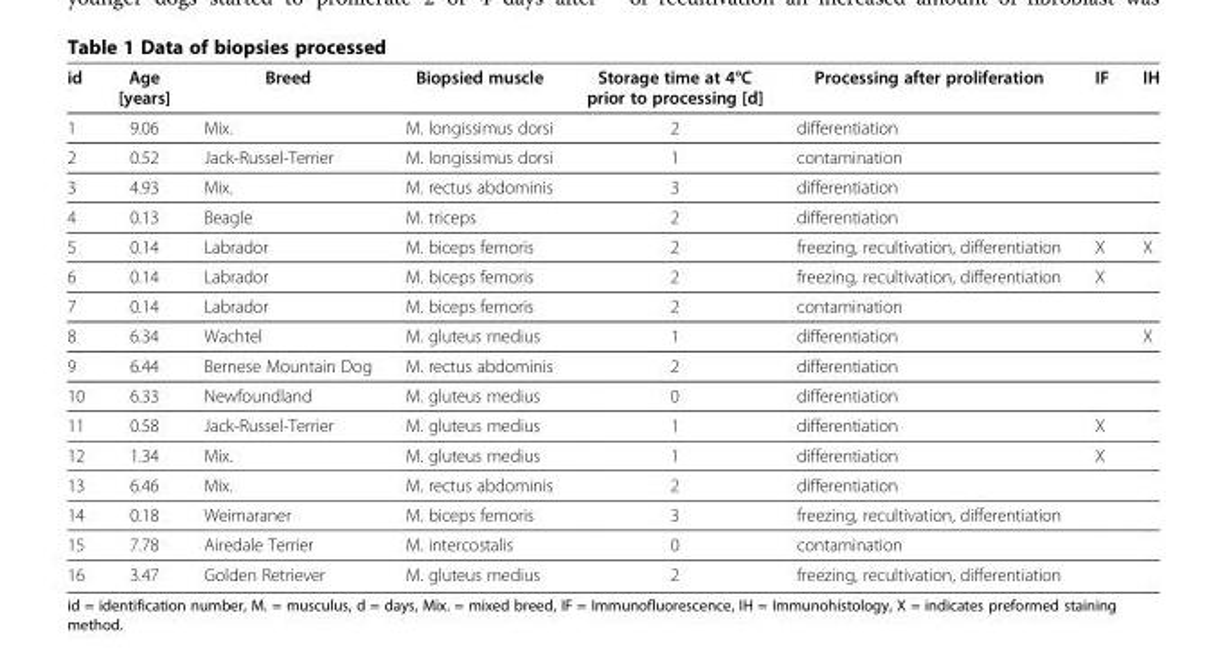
<table><thead><tr><td>id</td><td>Age [years]</td><td>Breed</td><td>Biopsied muscle</td><td>Storage time at 4°C prior to processing [d]</td><td>Processing after proliferation</td><td>IF</td><td>IH</td></tr></thead><tbody><tr><td>1</td><td>9.06</td><td>Mix.</td><td>M. longissimus dorsi</td><td>2</td><td>differentiation</td><td></td><td></td></tr><tr><td>2</td><td>0.52</td><td>Jack-Russel-Terrier</td><td>M. longissimus dorsi</td><td>1</td><td>contamination</td><td></td><td></td></tr><tr><td>3</td><td>4.93</td><td>Mix.</td><td>M. rectus abdominis</td><td>3</td><td>differentiation</td><td></td><td></td></tr><tr><td>4</td><td>0.13</td><td>Beagle</td><td>M. triceps</td><td>2</td><td>differentiation</td><td></td><td></td></tr><tr><td>5</td><td>0.14</td><td>Labrador</td><td>M. biceps femoris</td><td>2</td><td>freezing, recultivation, differentiation</td><td>X</td><td>X</td></tr><tr><td>6</td><td>0.14</td><td>Labrador</td><td>M. biceps femoris</td><td>2</td><td>freezing, recultivation, differentiation</td><td>X</td><td></td></tr><tr><td>7</td><td>0.14</td><td>Labrador</td><td>M. biceps femoris</td><td>2</td><td>contamination</td><td></td><td></td></tr><tr><td>8</td><td>6.34</td><td>Wachtel</td><td>M. gluteus medius</td><td>1</td><td>differentiation</td><td></td><td>X</td></tr><tr><td>9</td><td>6.44</td><td>Bernese Mountain Dog</td><td>M. rectus abdominis</td><td>2</td><td>differentiation</td><td></td><td></td></tr><tr><td>10</td><td>6.33</td><td>Newfoundland</td><td>M. gluteus medius</td><td>0</td><td>differentiation</td><td></td><td></td></tr><tr><td>11</td><td>0.58</td><td>Jack-Russel-Terrier</td><td>M. gluteus medius</td><td>1</td><td>differentiation</td><td>X</td><td></td></tr><tr><td>12</td><td>1.34</td><td>Mix.</td><td>M. gluteus medius</td><td>1</td><td>differentiation</td><td>X</td><td></td></tr><tr><td>13</td><td>6.46</td><td>Mix.</td><td>M. rectus abdominis</td><td>2</td><td>differentiation</td><td></td><td></td></tr><tr><td>14</td><td>0.18</td><td>Weimaraner</td><td>M. biceps femoris</td><td>3</td><td>freezing, recultivation, differentiation</td><td></td><td></td></tr><tr><td>15</td><td>7.78</td><td>Airedale Terrier</td><td>M. intercostalis</td><td>0</td><td>contamination</td><td></td><td></td></tr><tr><td>16</td><td>3.47</td><td>Golden Retriever</td><td>M. gluteus medius</td><td>2</td><td>freezing, recultivation, differentiation</td><td></td><td></td></tr></tbody></table>